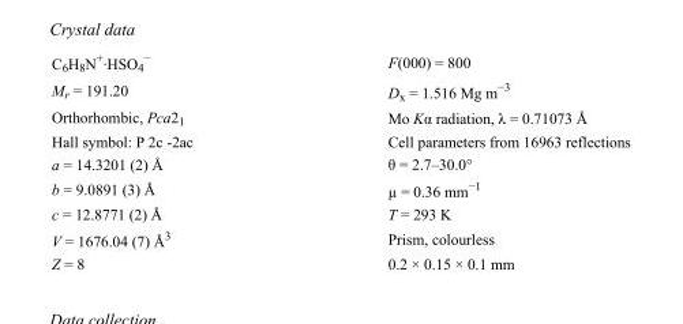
<table><tbody><tr><td>C<sub>6</sub>H<sub>8</sub>N<sup>+</sup>·HSO<sub>4</sub> <sup>−</sup></td><td>F(000) = 800</td></tr><tr><td>M<sub>r</sub> = 191.20</td><td>D<sub>x</sub> = 1.516 Mg m<sup>−3</sup></td></tr><tr><td>Orthorhombic, Pca2<sub>1</sub></td><td>Mo Kα radiation, λ = 0.71073 Å</td></tr><tr><td>Hall symbol: P 2c -2ac</td><td>Cell parameters from 16963 reflections</td></tr><tr><td>a = 14.3201 (2) Å</td><td>θ = 2.7–30.0°</td></tr><tr><td>b = 9.0891 (3) Å</td><td>µ = 0.36 mm<sup>−1</sup></td></tr><tr><td>c = 12.8771 (2) Å</td><td>T = 293 K</td></tr><tr><td>V = 1676.04 (7) Å<sup>3</sup></td><td>Prism, colourless</td></tr><tr><td>Z = 8</td><td>0.2 × 0.15 × 0.1 mm</td></tr></tbody></table>